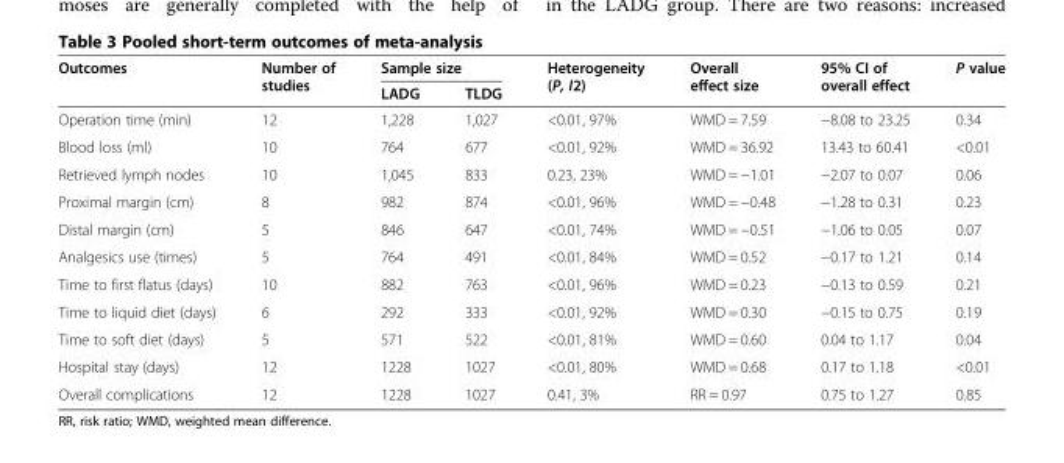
<table><thead><tr><td rowspan="2">Outcomes</td><td rowspan="2">Number of studies</td><td colspan="2">Sample size</td><td rowspan="2">Heterogeneity (P, I2)</td><td rowspan="2">Overall effect size</td><td rowspan="2">95% CI of overall effect</td><td rowspan="2">P value</td></tr><tr><td>LADG</td><td>TLDG</td></tr></thead><tbody><tr><td>Operation time (min)</td><td>12</td><td>1,228</td><td>1,027</td><td>&lt;0.01, 97%</td><td>WMD = 7.59</td><td>−8.08 to 23.25</td><td>0.34</td></tr><tr><td>Blood loss (ml)</td><td>10</td><td>764</td><td>677</td><td>&lt;0.01, 92%</td><td>WMD = 36.92</td><td>13.43 to 60.41</td><td>&lt;0.01</td></tr><tr><td>Retrieved lymph nodes</td><td>10</td><td>1,045</td><td>833</td><td>0.23, 23%</td><td>WMD = −1.01</td><td>−2.07 to 0.07</td><td>0.06</td></tr><tr><td>Proximal margin (cm)</td><td>8</td><td>982</td><td>874</td><td>&lt;0.01, 96%</td><td>WMD = −0.48</td><td>−1.28 to 0.31</td><td>0.23</td></tr><tr><td>Distal margin (cm)</td><td>5</td><td>846</td><td>647</td><td>&lt;0.01, 74%</td><td>WMD = −0.51</td><td>−1.06 to 0.05</td><td>0.07</td></tr><tr><td>Analgesics use (times)</td><td>5</td><td>764</td><td>491</td><td>&lt;0.01, 84%</td><td>WMD = 0.52</td><td>−0.17 to 1.21</td><td>0.14</td></tr><tr><td>Time to first flatus (days)</td><td>10</td><td>882</td><td>763</td><td>&lt;0.01, 96%</td><td>WMD = 0.23</td><td>−0.13 to 0.59</td><td>0.21</td></tr><tr><td>Time to liquid diet (days)</td><td>6</td><td>292</td><td>333</td><td>&lt;0.01, 92%</td><td>WMD = 0.30</td><td>−0.15 to 0.75</td><td>0.19</td></tr><tr><td>Time to soft diet (days)</td><td>5</td><td>571</td><td>522</td><td>&lt;0.01, 81%</td><td>WMD = 0.60</td><td>0.04 to 1.17</td><td>0.04</td></tr><tr><td>Hospital stay (days)</td><td>12</td><td>1228</td><td>1027</td><td>&lt;0.01, 80%</td><td>WMD = 0.68</td><td>0.17 to 1.18</td><td>&lt;0.01</td></tr><tr><td>Overall complications</td><td>12</td><td>1228</td><td>1027</td><td>0.41, 3%</td><td>RR = 0.97</td><td>0.75 to 1.27</td><td>0.85</td></tr></tbody></table>